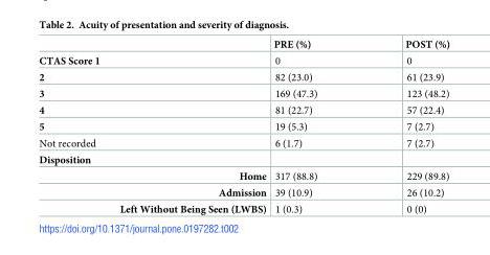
<table><thead><tr><td></td><td>PRE (%)</td><td>POST (%)</td></tr></thead><tbody><tr><td>CTAS Score 1</td><td>0</td><td>0</td></tr><tr><td>2</td><td>82 (23.0)</td><td>61 (23.9)</td></tr><tr><td>3</td><td>169 (47.3)</td><td>123 (48.2)</td></tr><tr><td>4</td><td>81 (22.7)</td><td>57 (22.4)</td></tr><tr><td>5</td><td>19 (5.3)</td><td>7 (2.7)</td></tr><tr><td>Not recorded</td><td>6 (1.7)</td><td>7 (2.7)</td></tr><tr><td colspan="3">Disposition</td></tr><tr><td>Home</td><td>317 (88.8)</td><td>229 (89.8)</td></tr><tr><td>Admission</td><td>39 (10.9)</td><td>26 (10.2)</td></tr><tr><td>Left Without Being Seen (LWBS)</td><td>1 (0.3)</td><td>0 (0)</td></tr></tbody></table>